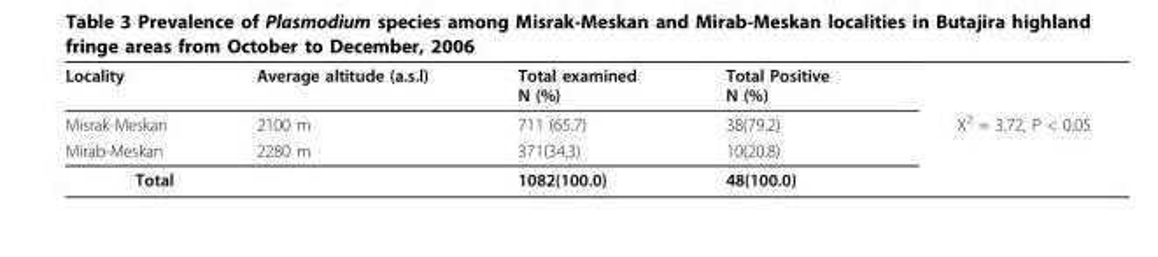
<table><tbody><tr><td>Locality</td><td>Average altitude (a.s.l)</td><td>Total examined N (%)</td><td>Total Positive N (%)</td><td></td></tr><tr><td>Misrak-Meskan</td><td>2100 m</td><td>711 (65.7)</td><td>38(79.2)</td><td>X<sup>2</sup> = 3.72, P &lt; 0.05</td></tr><tr><td>Mirab-Meskan</td><td>2280 m</td><td>371(34.3)</td><td>10(20.8)</td><td></td></tr><tr><td>Total</td><td></td><td>1082(100.0)</td><td>48(100.0)</td><td></td></tr></tbody></table>